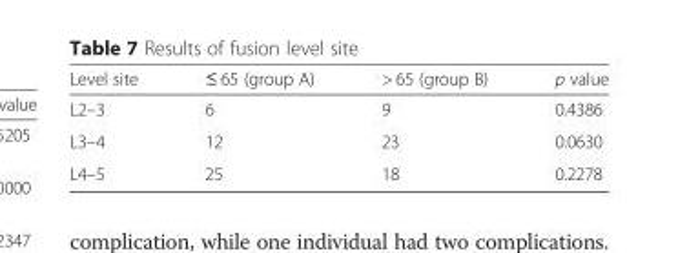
<table><thead><tr><td>Level site</td><td>≤ 65 (group A)</td><td>&gt; 65 (group B)</td><td>p value</td></tr></thead><tbody><tr><td>L2–3</td><td>6</td><td>9</td><td>0.4386</td></tr><tr><td>L3–4</td><td>12</td><td>23</td><td>0.0630</td></tr><tr><td>L4–5</td><td>25</td><td>18</td><td>0.2278</td></tr></tbody></table>